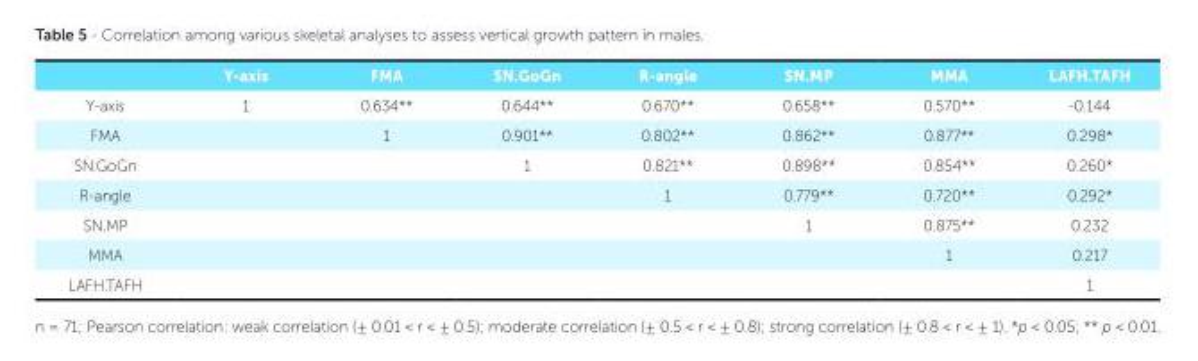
<table><thead><tr><td></td><td>Y-axis</td><td>FMA</td><td>SN.GoGn</td><td>R-angle</td><td>SN.MP</td><td>MMA</td><td>LAFH.TAFH</td></tr></thead><tbody><tr><td>Y-axis</td><td>1</td><td>0.634**</td><td>0.644**</td><td>0.670**</td><td>0.658**</td><td>0.570**</td><td>-0.144</td></tr><tr><td>FMA</td><td></td><td>1</td><td>0.901**</td><td>0.802**</td><td>0.862**</td><td>0.877**</td><td>0.298*</td></tr><tr><td>SN.GoGn</td><td></td><td></td><td>1</td><td>0.821**</td><td>0.898**</td><td>0.854**</td><td>0.260*</td></tr><tr><td>R-angle</td><td></td><td></td><td></td><td>1</td><td>0.779**</td><td>0.720**</td><td>0.292*</td></tr><tr><td>SN.MP</td><td></td><td></td><td></td><td></td><td>1</td><td>0.875**</td><td>0.232</td></tr><tr><td>MMA</td><td></td><td></td><td></td><td></td><td></td><td>1</td><td>0.217</td></tr><tr><td>LAFH.TAFH</td><td></td><td></td><td></td><td></td><td></td><td></td><td>1</td></tr></tbody></table>